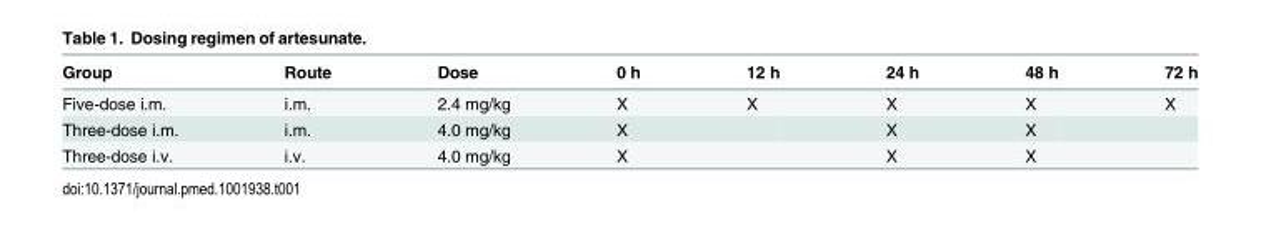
<table><thead><tr><td>Group</td><td>Route</td><td>Dose</td><td>0 h</td><td>12 h</td><td>24 h</td><td>48 h</td><td>72 h</td></tr></thead><tbody><tr><td>Five-dose i.m.</td><td>i.m.</td><td>2.4 mg/kg</td><td>X</td><td>X</td><td>X</td><td>X</td><td>X</td></tr><tr><td>Three-dose i.m.</td><td>i.m.</td><td>4.0 mg/kg</td><td>X</td><td></td><td>X</td><td>X</td><td></td></tr><tr><td>Three-dose i.v.</td><td>i.v.</td><td>4.0 mg/kg</td><td>X</td><td></td><td>X</td><td>X</td><td></td></tr></tbody></table>